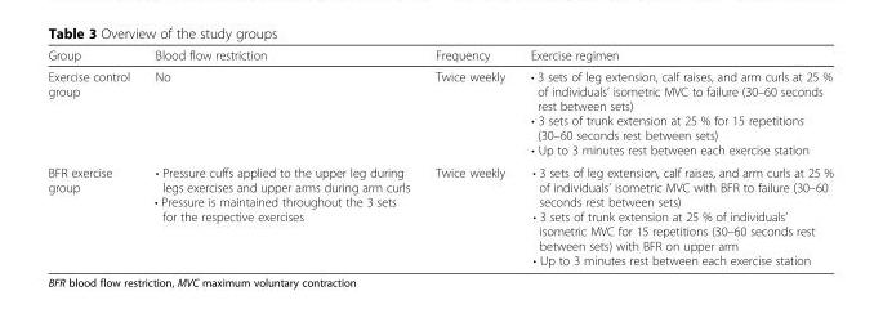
<table><thead><tr><td>Group</td><td>Blood flow restriction</td><td>Frequency</td><td>Exercise regimen</td></tr></thead><tbody><tr><td>Exercise control group</td><td>No</td><td>Twice weekly</td><td>• 3 sets of leg extension, calf raises, and arm curls at 25 % of individuals’ isometric MVC to failure (30–60 seconds rest between sets) • 3 sets of trunk extension at 25 % for 15 repetitions (30–60 seconds rest between sets) • Up to 3 minutes rest between each exercise station</td></tr><tr><td>BFR exercise group</td><td>• Pressure cuffs applied to the upper leg during legs exercises and upper arms during arm curls • Pressure is maintained throughout the 3 sets for the respective exercises</td><td>Twice weekly</td><td>• 3 sets of leg extension, calf raises, and arm curls at 25 % of individuals’ isometric MVC with BFR to failure (30–60 seconds rest between sets) • 3 sets of trunk extension at 25 % of individuals’ isometric MVC for 15 repetitions (30–60 seconds rest between sets) with BFR on upper arm • Up to 3 minutes rest between each exercise station</td></tr></tbody></table>